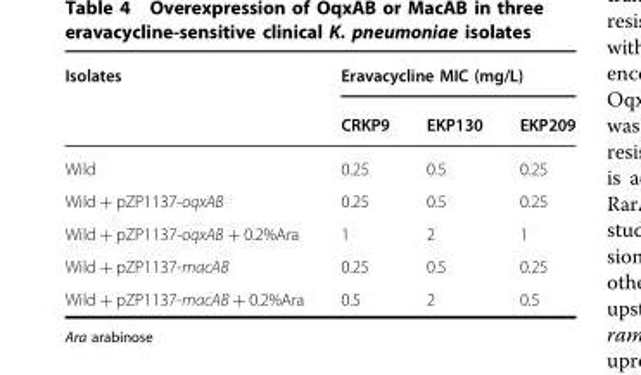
<table><thead><tr><td rowspan="2">Isolates</td><td colspan="3">Eravacycline MIC (mg/L)</td></tr><tr><td>CRKP9</td><td>EKP130</td><td>EKP209</td></tr></thead><tbody><tr><td>Wild</td><td>0.25</td><td>0.5</td><td>0.25</td></tr><tr><td>Wild + pZP1137-oqxAB</td><td>0.25</td><td>0.5</td><td>0.25</td></tr><tr><td>Wild + pZP1137-oqxAB + 0.2%Ara</td><td>1</td><td>2</td><td>1</td></tr><tr><td>Wild + pZP1137-macAB</td><td>0.25</td><td>0.5</td><td>0.25</td></tr><tr><td>Wild + pZP1137-macAB + 0.2%Ara</td><td>0.5</td><td>2</td><td>0.5</td></tr></tbody></table>